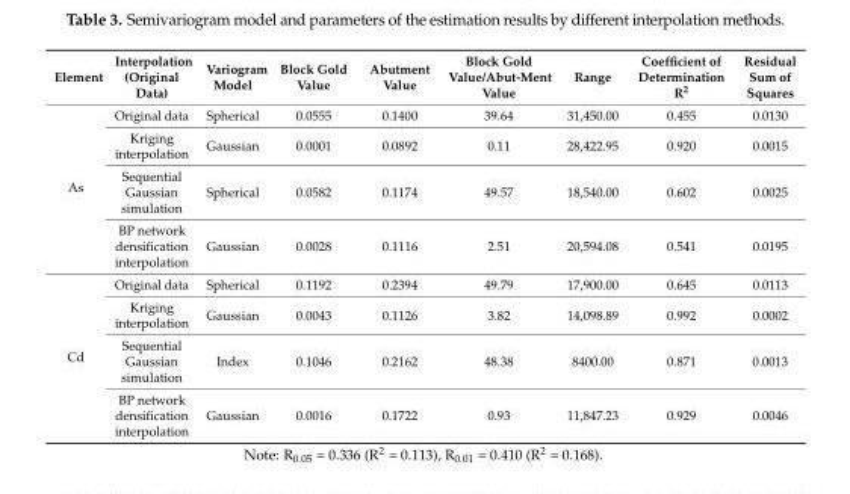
<table><thead><tr><td>Element</td><td>Interpolation (Original Data)</td><td>Variogram Model</td><td>Block Gold Value</td><td>Abutment Value</td><td>Block Gold Value/Abut-Ment Value</td><td>Range</td><td>Coefficient of Determination R<sup>2</sup></td><td>Residual Sum of Squares</td></tr></thead><tbody><tr><td rowspan="4">As</td><td>Original data</td><td>Spherical</td><td>0.0555</td><td>0.1400</td><td>39.64</td><td>31,450.00</td><td>0.455</td><td>0.0130</td></tr><tr><td>Kriging interpolation</td><td>Gaussian</td><td>0.0001</td><td>0.0892</td><td>0.11</td><td>28,422.95</td><td>0.920</td><td>0.0015</td></tr><tr><td>Sequential Gaussian simulation</td><td>Spherical</td><td>0.0582</td><td>0.1174</td><td>49.57</td><td>18,540.00</td><td>0.602</td><td>0.0025</td></tr><tr><td>BP network densification interpolation</td><td>Gaussian</td><td>0.0028</td><td>0.1116</td><td>2.51</td><td>20,594.08</td><td>0.541</td><td>0.0195</td></tr><tr><td rowspan="4">Cd</td><td>Original data</td><td>Spherical</td><td>0.1192</td><td>0.2394</td><td>49.79</td><td>17,900.00</td><td>0.645</td><td>0.0113</td></tr><tr><td>Kriging interpolation</td><td>Gaussian</td><td>0.0043</td><td>0.1126</td><td>3.82</td><td>14,098.89</td><td>0.992</td><td>0.0002</td></tr><tr><td>Sequential Gaussian simulation</td><td>Index</td><td>0.1046</td><td>0.2162</td><td>48.38</td><td>8400.00</td><td>0.871</td><td>0.0013</td></tr><tr><td>BP network densification interpolation</td><td>Gaussian</td><td>0.0016</td><td>0.1722</td><td>0.93</td><td>11,847.23</td><td>0.929</td><td>0.0046</td></tr></tbody></table>